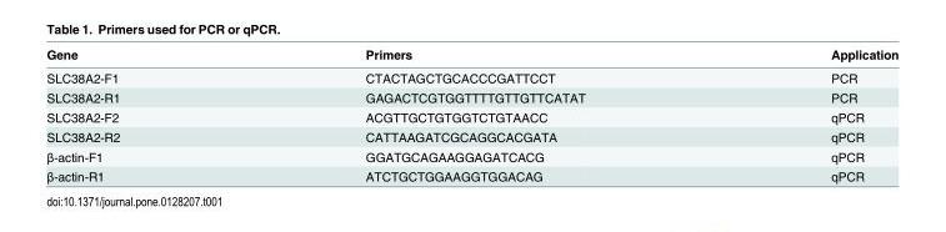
<table><thead><tr><td>Gene</td><td>Primers</td><td>Application</td></tr></thead><tbody><tr><td>SLC38A2-F1</td><td>CTACTAGCTGCACCCGATTCCT</td><td>PCR</td></tr><tr><td>SLC38A2-R1</td><td>GAGACTCGTGGTTTTGTTGTTCATAT</td><td>PCR</td></tr><tr><td>SLC38A2-F2</td><td>ACGTTGCTGTGGTCTGTAACC</td><td>qPCR</td></tr><tr><td>SLC38A2-R2</td><td>CATTAAGATCGCAGGCACGATA</td><td>qPCR</td></tr><tr><td>β-actin-F1</td><td>GGATGCAGAAGGAGATCACG</td><td>qPCR</td></tr><tr><td>β-actin-R1</td><td>ATCTGCTGGAAGGTGGACAG</td><td>qPCR</td></tr></tbody></table>